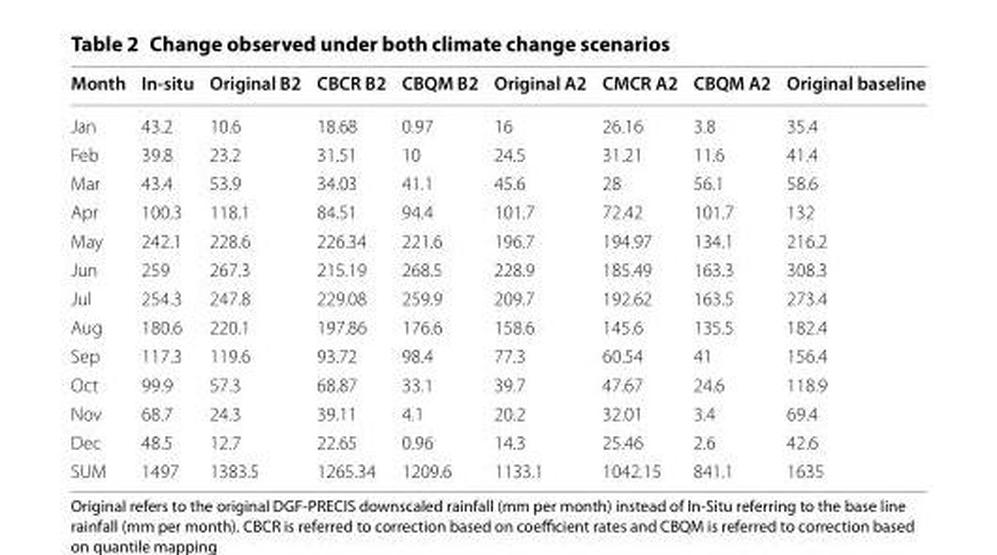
<table><thead><tr><td>Month</td><td>In‑situ</td><td>Original B2</td><td>CBCR B2</td><td>CBQM B2</td><td>Original A2</td><td>CMCR A2</td><td>CBQM A2</td><td>Original baseline</td></tr></thead><tbody><tr><td>Jan</td><td>43.2</td><td>10.6</td><td>18.68</td><td>0.97</td><td>16</td><td>26.16</td><td>3.8</td><td>35.4</td></tr><tr><td>Feb</td><td>39.8</td><td>23.2</td><td>31.51</td><td>10</td><td>24.5</td><td>31.21</td><td>11.6</td><td>41.4</td></tr><tr><td>Mar</td><td>43.4</td><td>53.9</td><td>34.03</td><td>41.1</td><td>45.6</td><td>28</td><td>56.1</td><td>58.6</td></tr><tr><td>Apr</td><td>100.3</td><td>118.1</td><td>84.51</td><td>94.4</td><td>101.7</td><td>72.42</td><td>101.7</td><td>132</td></tr><tr><td>May</td><td>242.1</td><td>228.6</td><td>226.34</td><td>221.6</td><td>196.7</td><td>194.97</td><td>134.1</td><td>216.2</td></tr><tr><td>Jun</td><td>259</td><td>267.3</td><td>215.19</td><td>268.5</td><td>228.9</td><td>185.49</td><td>163.3</td><td>308.3</td></tr><tr><td>Jul</td><td>254.3</td><td>247.8</td><td>229.08</td><td>259.9</td><td>209.7</td><td>192.62</td><td>163.5</td><td>273.4</td></tr><tr><td>Aug</td><td>180.6</td><td>220.1</td><td>197.86</td><td>176.6</td><td>158.6</td><td>145.6</td><td>135.5</td><td>182.4</td></tr><tr><td>Sep</td><td>117.3</td><td>119.6</td><td>93.72</td><td>98.4</td><td>77.3</td><td>60.54</td><td>41</td><td>156.4</td></tr><tr><td>Oct</td><td>99.9</td><td>57.3</td><td>68.87</td><td>33.1</td><td>39.7</td><td>47.67</td><td>24.6</td><td>118.9</td></tr><tr><td>Nov</td><td>68.7</td><td>24.3</td><td>39.11</td><td>4.1</td><td>20.2</td><td>32.01</td><td>3.4</td><td>69.4</td></tr><tr><td>Dec</td><td>48.5</td><td>12.7</td><td>22.65</td><td>0.96</td><td>14.3</td><td>25.46</td><td>2.6</td><td>42.6</td></tr><tr><td>SUM</td><td>1497</td><td>1383.5</td><td>1265.34</td><td>1209.6</td><td>1133.1</td><td>1042.15</td><td>841.1</td><td>1635</td></tr></tbody></table>